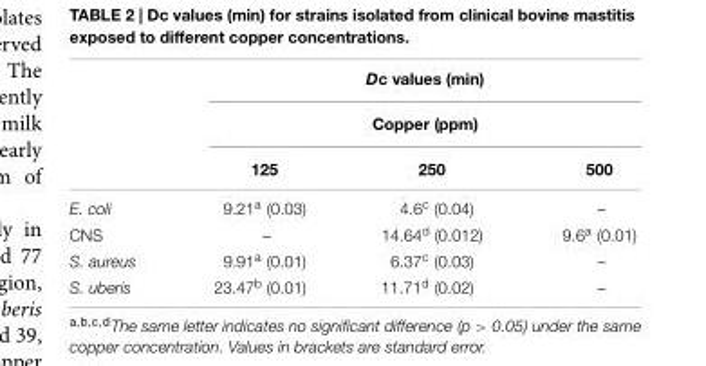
<table><thead><tr><td rowspan="3"></td><td rowspan="2" colspan="3">Dc values (min) Copper (ppm)</td></tr><tr></tr><tr><td>125</td><td>250</td><td>500</td></tr></thead><tbody><tr><td>E. coli</td><td>9.21<sup>a</sup> (0.03)</td><td>4.6<sup>c</sup> (0.04)</td><td>–</td></tr><tr><td>CNS</td><td>–</td><td>14.64<sup>d</sup> (0.012)</td><td>9.6<sup>a</sup> (0.01)</td></tr><tr><td>S. aureus</td><td>9.91<sup>a</sup> (0.01)</td><td>6.37<sup>c</sup> (0.03)</td><td>–</td></tr><tr><td>S. uberis</td><td>23.47<sup>b</sup> (0.01)</td><td>11.71<sup>d</sup> (0.02)</td><td>–</td></tr></tbody></table>